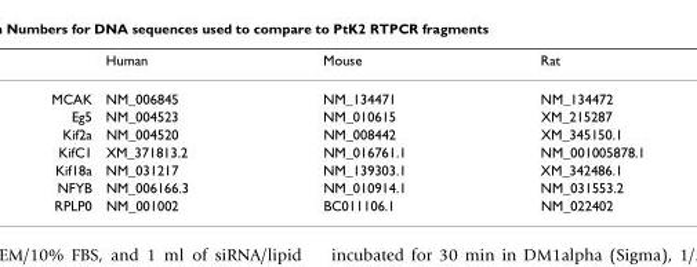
<table><thead><tr><td></td><td>Human</td><td>Mouse</td><td>Rat</td></tr></thead><tbody><tr><td>MCAK</td><td>NM_006845</td><td>NM_134471</td><td>NM_134472</td></tr><tr><td>Eg5</td><td>NM_004523</td><td>NM_010615</td><td>XM_215287</td></tr><tr><td>Kif2a</td><td>NM_004520</td><td>NM_008442</td><td>XM_345150.1</td></tr><tr><td>KifC1</td><td>XM_371813.2</td><td>NM_016761.1</td><td>NM_001005878.1</td></tr><tr><td>Kif18a</td><td>NM_031217</td><td>NM_139303.1</td><td>XM_342486.1</td></tr><tr><td>NFYB</td><td>NM_006166.3</td><td>NM_010914.1</td><td>NM_031553.2</td></tr><tr><td>RPLP0</td><td>NM_001002</td><td>BC011106.1</td><td>NM_022402</td></tr></tbody></table>